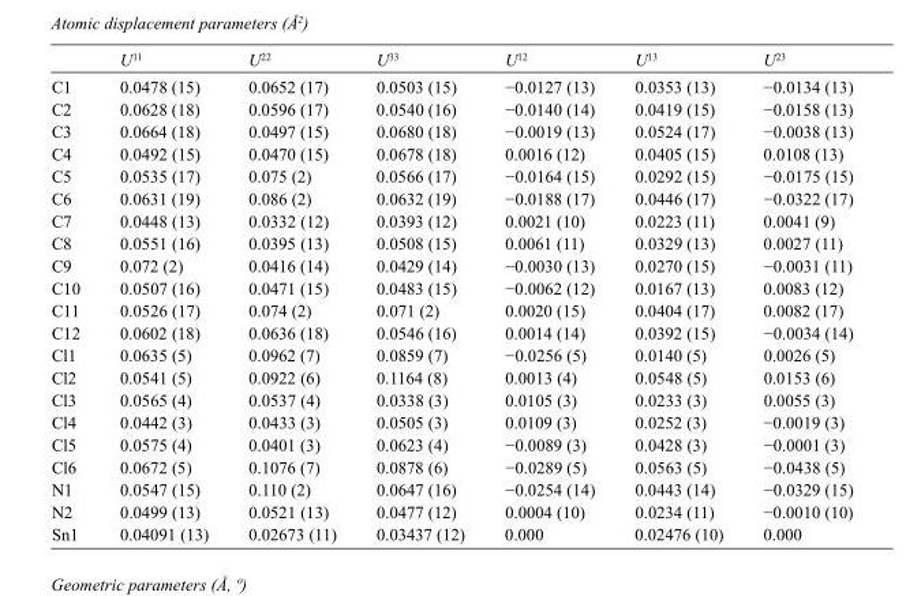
<table><thead><tr><td></td><td>U<sup>11</sup></td><td>U<sup>22</sup></td><td>U<sup>33</sup></td><td>U<sup>12</sup></td><td>U<sup>13</sup></td><td>U<sup>23</sup></td></tr></thead><tbody><tr><td>C1</td><td>0.0478 (15)</td><td>0.0652 (17)</td><td>0.0503 (15)</td><td>−0.0127 (13)</td><td>0.0353 (13)</td><td>−0.0134 (13)</td></tr><tr><td>C2</td><td>0.0628 (18)</td><td>0.0596 (17)</td><td>0.0540 (16)</td><td>−0.0140 (14)</td><td>0.0419 (15)</td><td>−0.0158 (13)</td></tr><tr><td>C3</td><td>0.0664 (18)</td><td>0.0497 (15)</td><td>0.0680 (18)</td><td>−0.0019 (13)</td><td>0.0524 (17)</td><td>−0.0038 (13)</td></tr><tr><td>C4</td><td>0.0492 (15)</td><td>0.0470 (15)</td><td>0.0678 (18)</td><td>0.0016 (12)</td><td>0.0405 (15)</td><td>0.0108 (13)</td></tr><tr><td>C5</td><td>0.0535 (17)</td><td>0.075 (2)</td><td>0.0566 (17)</td><td>−0.0164 (15)</td><td>0.0292 (15)</td><td>−0.0175 (15)</td></tr><tr><td>C6</td><td>0.0631 (19)</td><td>0.086 (2)</td><td>0.0632 (19)</td><td>−0.0188 (17)</td><td>0.0446 (17)</td><td>−0.0322 (17)</td></tr><tr><td>C7</td><td>0.0448 (13)</td><td>0.0332 (12)</td><td>0.0393 (12)</td><td>0.0021 (10)</td><td>0.0223 (11)</td><td>0.0041 (9)</td></tr><tr><td>C8</td><td>0.0551 (16)</td><td>0.0395 (13)</td><td>0.0508 (15)</td><td>0.0061 (11)</td><td>0.0329 (13)</td><td>0.0027 (11)</td></tr><tr><td>C9</td><td>0.072 (2)</td><td>0.0416 (14)</td><td>0.0429 (14)</td><td>−0.0030 (13)</td><td>0.0270 (15)</td><td>−0.0031 (11)</td></tr><tr><td>C10</td><td>0.0507 (16)</td><td>0.0471 (15)</td><td>0.0483 (15)</td><td>−0.0062 (12)</td><td>0.0167 (13)</td><td>0.0083 (12)</td></tr><tr><td>C11</td><td>0.0526 (17)</td><td>0.074 (2)</td><td>0.071 (2)</td><td>0.0020 (15)</td><td>0.0404 (17)</td><td>0.0082 (17)</td></tr><tr><td>C12</td><td>0.0602 (18)</td><td>0.0636 (18)</td><td>0.0546 (16)</td><td>0.0014 (14)</td><td>0.0392 (15)</td><td>−0.0034 (14)</td></tr><tr><td>Cl1</td><td>0.0635 (5)</td><td>0.0962 (7)</td><td>0.0859 (7)</td><td>−0.0256 (5)</td><td>0.0140 (5)</td><td>0.0026 (5)</td></tr><tr><td>Cl2</td><td>0.0541 (5)</td><td>0.0922 (6)</td><td>0.1164 (8)</td><td>0.0013 (4)</td><td>0.0548 (5)</td><td>0.0153 (6)</td></tr><tr><td>Cl3</td><td>0.0565 (4)</td><td>0.0537 (4)</td><td>0.0338 (3)</td><td>0.0105 (3)</td><td>0.0233 (3)</td><td>0.0055 (3)</td></tr><tr><td>Cl4</td><td>0.0442 (3)</td><td>0.0433 (3)</td><td>0.0505 (3)</td><td>0.0109 (3)</td><td>0.0252 (3)</td><td>−0.0019 (3)</td></tr><tr><td>Cl5</td><td>0.0575 (4)</td><td>0.0401 (3)</td><td>0.0623 (4)</td><td>−0.0089 (3)</td><td>0.0428 (3)</td><td>−0.0001 (3)</td></tr><tr><td>Cl6</td><td>0.0672 (5)</td><td>0.1076 (7)</td><td>0.0878 (6)</td><td>−0.0289 (5)</td><td>0.0563 (5)</td><td>−0.0438 (5)</td></tr><tr><td>N1</td><td>0.0547 (15)</td><td>0.110 (2)</td><td>0.0647 (16)</td><td>−0.0254 (14)</td><td>0.0443 (14)</td><td>−0.0329 (15)</td></tr><tr><td>N2</td><td>0.0499 (13)</td><td>0.0521 (13)</td><td>0.0477 (12)</td><td>0.0004 (10)</td><td>0.0234 (11)</td><td>−0.0010 (10)</td></tr><tr><td>Sn1</td><td>0.04091 (13)</td><td>0.02673 (11)</td><td>0.03437 (12)</td><td>0.000</td><td>0.02476 (10)</td><td>0.000</td></tr></tbody></table>